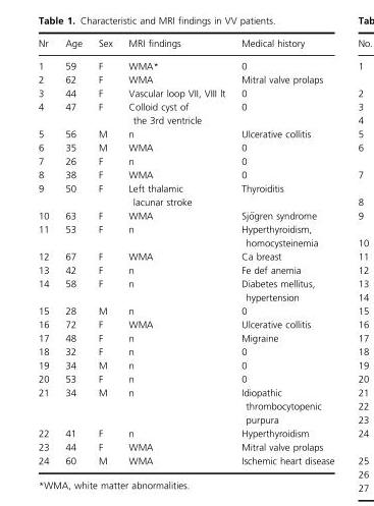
<table><thead><tr><td>Nr</td><td>Age</td><td>Sex</td><td>MRI findings</td><td>Medical history</td></tr></thead><tbody><tr><td>1</td><td>59</td><td>F</td><td>WMA*</td><td>0</td></tr><tr><td>2</td><td>62</td><td>F</td><td>WMA</td><td>Mitral valve prolaps</td></tr><tr><td>3</td><td>44</td><td>F</td><td>Vascular loop VII, VIII lt</td><td>0</td></tr><tr><td>4</td><td>47</td><td>F</td><td>Colloid cyst of the 3rd ventricle</td><td>0</td></tr><tr><td>5</td><td>56</td><td>M</td><td>n</td><td>Ulcerative collitis</td></tr><tr><td>6</td><td>35</td><td>M</td><td>WMA</td><td>0</td></tr><tr><td>7</td><td>26</td><td>F</td><td>n</td><td>0</td></tr><tr><td>8</td><td>38</td><td>F</td><td>WMA</td><td>0</td></tr><tr><td>9</td><td>50</td><td>F</td><td>Left thalamic lacunar stroke</td><td>Thyroiditis</td></tr><tr><td>10</td><td>63</td><td>F</td><td>WMA</td><td>Sj€ogren syndrome</td></tr><tr><td>11</td><td>53</td><td>F</td><td>n</td><td>Hyperthyroidism, homocysteinemia</td></tr><tr><td>12</td><td>67</td><td>F</td><td>WMA</td><td>Ca breast</td></tr><tr><td>13</td><td>42</td><td>F</td><td>n</td><td>Fe def anemia</td></tr><tr><td>14</td><td>58</td><td>F</td><td>n</td><td>Diabetes mellitus, hypertension</td></tr><tr><td>15</td><td>28</td><td>M</td><td>n</td><td>0</td></tr><tr><td>16</td><td>72</td><td>F</td><td>WMA</td><td>Ulcerative collitis</td></tr><tr><td>17</td><td>48</td><td>F</td><td>n</td><td>Migraine</td></tr><tr><td>18</td><td>32</td><td>F</td><td>n</td><td>0</td></tr><tr><td>19</td><td>34</td><td>M</td><td>n</td><td>0</td></tr><tr><td>20</td><td>53</td><td>F</td><td>n</td><td>0</td></tr><tr><td>21</td><td>34</td><td>M</td><td>n</td><td>Idiopathic thrombocytopenic purpura</td></tr><tr><td>22</td><td>41</td><td>F</td><td>n</td><td>Hyperthyroidism</td></tr><tr><td>23</td><td>44</td><td>F</td><td>WMA</td><td>Mitral valve prolaps</td></tr><tr><td>24</td><td>60</td><td>M</td><td>WMA</td><td>Ischemic heart disease</td></tr></tbody></table>